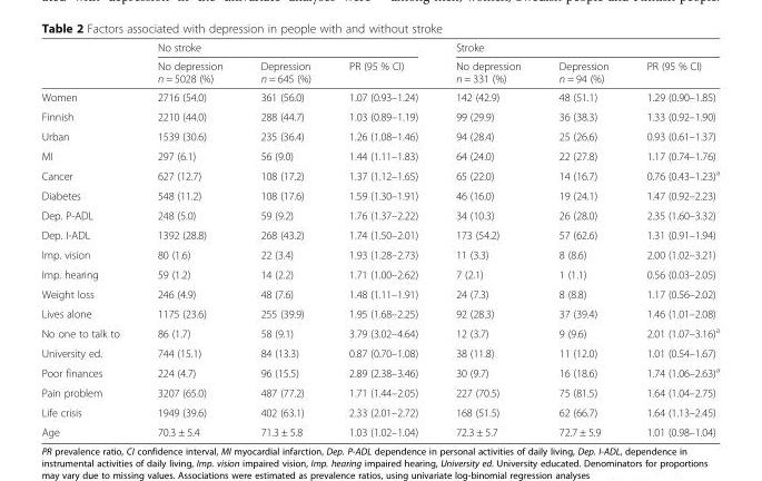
<table><thead><tr><td rowspan="2"></td><td colspan="3">No stroke</td><td colspan="3">Stroke</td></tr><tr><td>No depression n = 5028 (%)</td><td>Depression n = 645 (%)</td><td>PR (95 % CI)</td><td>No depression n = 331 (%)</td><td>Depression n = 94 (%)</td><td>PR (95 % CI)</td></tr></thead><tbody><tr><td>Women</td><td>2716 (54.0)</td><td>361 (56.0)</td><td>1.07 (0.93–1.24)</td><td>142 (42.9)</td><td>48 (51.1)</td><td>1.29 (0.90–1.85)</td></tr><tr><td>Finnish</td><td>2210 (44.0)</td><td>288 (44.7)</td><td>1.03 (0.89–1.19)</td><td>99 (29.9)</td><td>36 (38.3)</td><td>1.33 (0.92–1.90)</td></tr><tr><td>Urban</td><td>1539 (30.6)</td><td>235 (36.4)</td><td>1.26 (1.08–1.46)</td><td>94 (28.4)</td><td>25 (26.6)</td><td>0.93 (0.61–1.37)</td></tr><tr><td>MI</td><td>297 (6.1)</td><td>56 (9.0)</td><td>1.44 (1.11–1.83)</td><td>64 (24.0)</td><td>22 (27.8)</td><td>1.17 (0.74–1.76)</td></tr><tr><td>Cancer</td><td>627 (12.7)</td><td>108 (17.2)</td><td>1.37 (1.12–1.65)</td><td>65 (22.0)</td><td>14 (16.7)</td><td>0.76 (0.43–1.23)<sup>a</sup></td></tr><tr><td>Diabetes</td><td>548 (11.2)</td><td>108 (17.6)</td><td>1.59 (1.30–1.91)</td><td>46 (16.0)</td><td>19 (24.1)</td><td>1.47 (0.92–2.23)</td></tr><tr><td>Dep. P-ADL</td><td>248 (5.0)</td><td>59 (9.2)</td><td>1.76 (1.37–2.22)</td><td>34 (10.3)</td><td>26 (28.0)</td><td>2.35 (1.60–3.32)</td></tr><tr><td>Dep. I-ADL</td><td>1392 (28.8)</td><td>268 (43.2)</td><td>1.74 (1.50–2.01)</td><td>173 (54.2)</td><td>57 (62.6)</td><td>1.31 (0.91–1.94)</td></tr><tr><td>Imp. vision</td><td>80 (1.6)</td><td>22 (3.4)</td><td>1.93 (1.28–2.73)</td><td>11 (3.3)</td><td>8 (8.6)</td><td>2.00 (1.02–3.21)</td></tr><tr><td>Imp. hearing</td><td>59 (1.2)</td><td>14 (2.2)</td><td>1.71 (1.00–2.62)</td><td>7 (2.1)</td><td>1 (1.1)</td><td>0.56 (0.03–2.05)</td></tr><tr><td>Weight loss</td><td>246 (4.9)</td><td>48 (7.6)</td><td>1.48 (1.11–1.91)</td><td>24 (7.3)</td><td>8 (8.8)</td><td>1.17 (0.56–2.02)</td></tr><tr><td>Lives alone</td><td>1175 (23.6)</td><td>255 (39.9)</td><td>1.95 (1.68–2.25)</td><td>92 (28.3)</td><td>37 (39.4)</td><td>1.46 (1.01–2.08)</td></tr><tr><td>No one to talk to</td><td>86 (1.7)</td><td>58 (9.1)</td><td>3.79 (3.02–4.64)</td><td>12 (3.7)</td><td>9 (9.6)</td><td>2.01 (1.07–3.16)<sup>a</sup></td></tr><tr><td>University ed.</td><td>744 (15.1)</td><td>84 (13.3)</td><td>0.87 (0.70–1.08)</td><td>38 (11.8)</td><td>11 (12.0)</td><td>1.01 (0.54–1.67)</td></tr><tr><td>Poor finances</td><td>224 (4.7)</td><td>96 (15.5)</td><td>2.89 (2.38–3.46)</td><td>30 (9.7)</td><td>16 (18.6)</td><td>1.74 (1.06–2.63)<sup>a</sup></td></tr><tr><td>Pain problem</td><td>3207 (65.0)</td><td>487 (77.2)</td><td>1.71 (1.44–2.05)</td><td>227 (70.5)</td><td>75 (81.5)</td><td>1.64 (1.04–2.75)</td></tr><tr><td>Life crisis</td><td>1949 (39.6)</td><td>402 (63.1)</td><td>2.33 (2.01–2.72)</td><td>168 (51.5)</td><td>62 (66.7)</td><td>1.64 (1.13–2.45)</td></tr><tr><td>Age</td><td>70.3 ± 5.4</td><td>71.3 ± 5.8</td><td>1.03 (1.02–1.04)</td><td>72.3 ± 5.7</td><td>72.7 ± 5.9</td><td>1.01 (0.98–1.04)</td></tr></tbody></table>